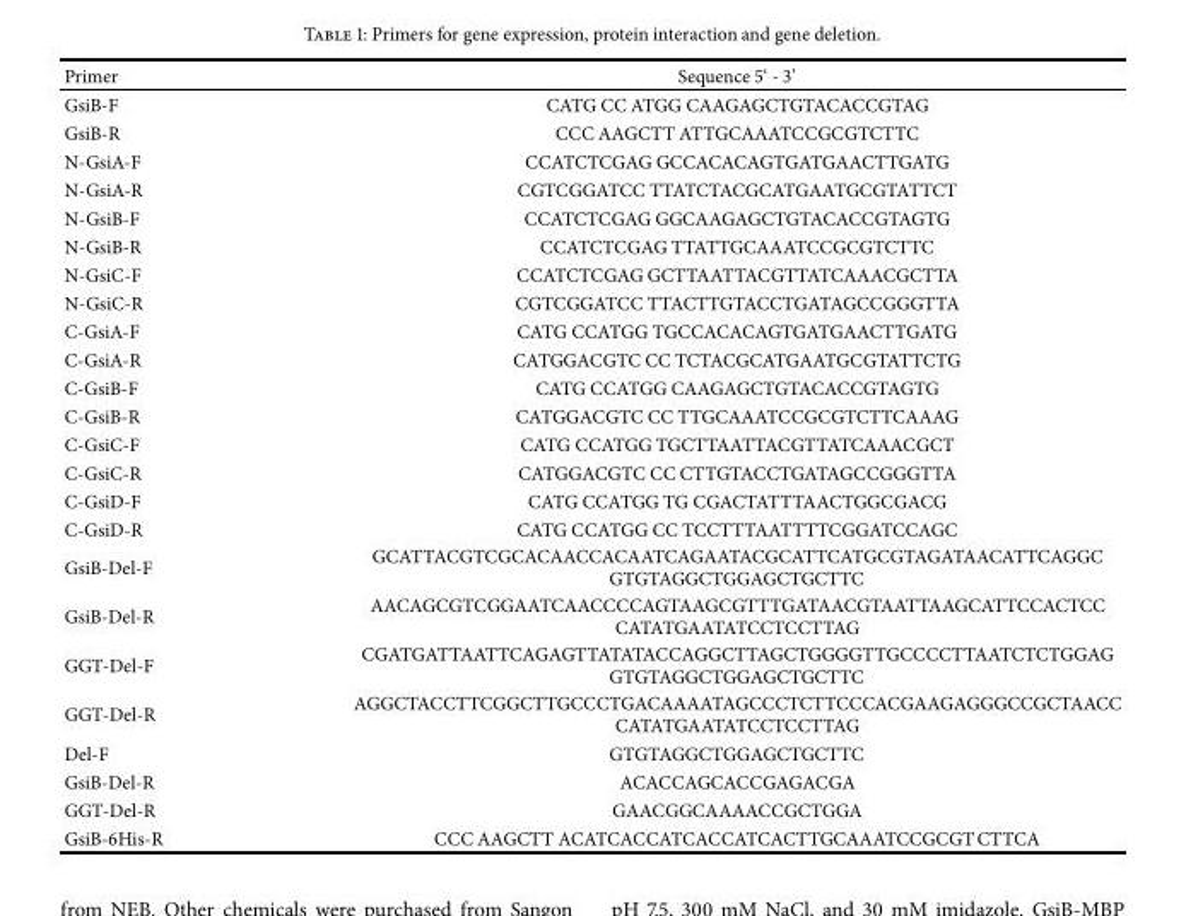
<table><thead><tr><td>Primer</td><td>Sequence 5‘ - 3’</td></tr></thead><tbody><tr><td>GsiB-F</td><td>CATG CC ATGG CAAGAGCTGTACACCGTAG</td></tr><tr><td>GsiB-R</td><td>CCC AAGCTT ATTGCAAATCCGCGTCTTC</td></tr><tr><td>N-GsiA-F</td><td>CCATCTCGAG GCCACACAGTGATGAACTTGATG</td></tr><tr><td>N-GsiA-R</td><td>CGTCGGATCC TTATCTACGCATGAATGCGTATTCT</td></tr><tr><td>N-GsiB-F</td><td>CCATCTCGAG GGCAAGAGCTGTACACCGTAGTG</td></tr><tr><td>N-GsiB-R</td><td>CCATCTCGAG TTATTGCAAATCCGCGTCTTC</td></tr><tr><td>N-GsiC-F</td><td>CCATCTCGAG GCTTAATTACGTTATCAAACGCTTA</td></tr><tr><td>N-GsiC-R</td><td>CGTCGGATCC TTACTTGTACCTGATAGCCGGGTTA</td></tr><tr><td>C-GsiA-F</td><td>CATG CCATGG TGCCACACAGTGATGAACTTGATG</td></tr><tr><td>C-GsiA-R</td><td>CATGGACGTC CC TCTACGCATGAATGCGTATTCTG</td></tr><tr><td>C-GsiB-F</td><td>CATG CCATGG CAAGAGCTGTACACCGTAGTG</td></tr><tr><td>C-GsiB-R</td><td>CATGGACGTC CC TTGCAAATCCGCGTCTTCAAAG</td></tr><tr><td>C-GsiC-F</td><td>CATG CCATGG TGCTTAATTACGTTATCAAACGCT</td></tr><tr><td>C-GsiC-R</td><td>CATGGACGTC CC CTTGTACCTGATAGCCGGGTTA</td></tr><tr><td>C-GsiD-F</td><td>CATG CCATGG TG CGACTATTTAACTGGCGACG</td></tr><tr><td>C-GsiD-R</td><td>CATG CCATGG CC TCCTTTAATTTTCGGATCCAGC</td></tr><tr><td>GsiB-Del-F</td><td>GCATTACGTCGCACAACCACAATCAGAATACGCATTCATGCGTAGATAACATTCAGGC GTGTAGGCTGGAGCTGCTTC</td></tr><tr><td>GsiB-Del-R</td><td>AACAGCGTCGGAATCAACCCCAGTAAGCGTTTGATAACGTAATTAAGCATTCCACTCC CATATGAATATCCTCCTTAG</td></tr><tr><td>GGT-Del-F</td><td>CGATGATTAATTCAGAGTTATATACCAGGCTTAGCTGGGGTTGCCCCTTAATCTCTGGAG GTGTAGGCTGGAGCTGCTTC</td></tr><tr><td>GGT-Del-R</td><td>AGGCTACCTTCGGCTTGCCCTGACAAAATAGCCCTCTTCCCACGAAGAGGGCCGCTAACC CATATGAATATCCTCCTTAG</td></tr><tr><td>Del-F</td><td>GTGTAGGCTGGAGCTGCTTC</td></tr><tr><td>GsiB-Del-R</td><td>ACACCAGCACCGAGACGA</td></tr><tr><td>GGT-Del-R</td><td>GAACGGCAAAACCGCTGGA</td></tr><tr><td>GsiB-6His-R</td><td>CCC AAGCTT ACATCACCATCACCATCACTTGCAAATCCGCGTCTTCA</td></tr></tbody></table>